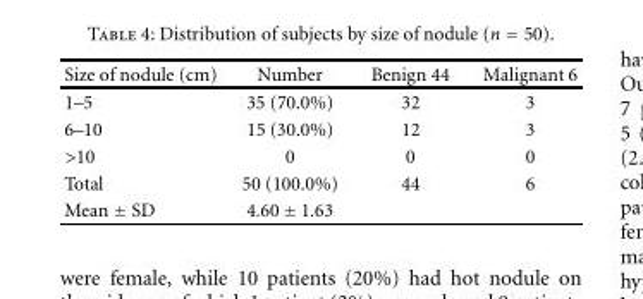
<table><thead><tr><td>Size of nodule (cm)</td><td>Number</td><td>Benign 44</td><td>Malignant 6</td></tr></thead><tbody><tr><td>1–5</td><td>35 (70.0%)</td><td>32</td><td>3</td></tr><tr><td>6–10</td><td>15 (30.0%)</td><td>12</td><td>3</td></tr><tr><td>&gt;10</td><td>0</td><td>0</td><td>0</td></tr><tr><td>Total</td><td>50 (100.0%)</td><td>44</td><td>6</td></tr><tr><td>Mean ± SD</td><td>4.60 ± 1.63</td><td></td><td></td></tr></tbody></table>